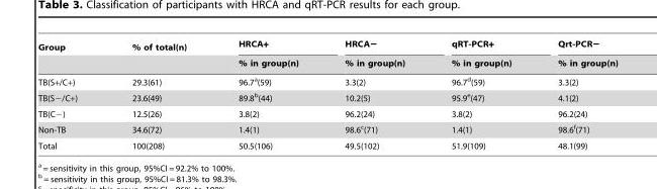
<table><thead><tr><td rowspan="2">Group</td><td rowspan="2">% of total(n)</td><td rowspan="2">HRCA+ % in group(n)</td><td rowspan="2">HRCA− % in group(n)</td><td rowspan="2">qRT-PCR+ % in group(n)</td><td rowspan="2">Qrt-PCR− % in group(n)</td></tr><tr></tr></thead><tbody><tr><td>TB(S+/C+)</td><td>29.3(61)</td><td>96.7<sup>a</sup>(59)</td><td>3.3(2)</td><td>96.7<sup>d</sup>(59)</td><td>3.3(2)</td></tr><tr><td>TB(S−/C+)</td><td>23.6(49)</td><td>89.8<sup>b</sup>(44)</td><td>10.2(5)</td><td>95.9<sup>e</sup>(47)</td><td>4.1(2)</td></tr><tr><td>TB(C−)</td><td>12.5(26)</td><td>3.8(2)</td><td>96.2(24)</td><td>3.8(2)</td><td>96.2(24)</td></tr><tr><td>Non-TB</td><td>34.6(72)</td><td>1.4(1)</td><td>98.6<sup>c</sup>(71)</td><td>1.4(1)</td><td>98.6<sup>f</sup>(71)</td></tr><tr><td>Total</td><td>100(208)</td><td>50.5(106)</td><td>49.5(102)</td><td>51.9(109)</td><td>48.1(99)</td></tr></tbody></table>